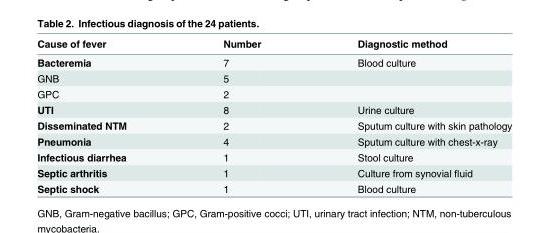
<table><thead><tr><td>Cause of fever</td><td>Number</td><td>Diagnostic method</td></tr></thead><tbody><tr><td>Bacteremia</td><td>7</td><td>Blood culture</td></tr><tr><td>GNB</td><td>5</td><td></td></tr><tr><td>GPC</td><td>2</td><td></td></tr><tr><td>UTI</td><td>8</td><td>Urine culture</td></tr><tr><td>Disseminated NTM</td><td>2</td><td>Sputum culture with skin pathology</td></tr><tr><td>Pneumonia</td><td>4</td><td>Sputum culture with chest-x-ray</td></tr><tr><td>Infectious diarrhea</td><td>1</td><td>Stool culture</td></tr><tr><td>Septic arthritis</td><td>1</td><td>Culture from synovial fluid</td></tr><tr><td>Septic shock</td><td>1</td><td>Blood culture</td></tr></tbody></table>